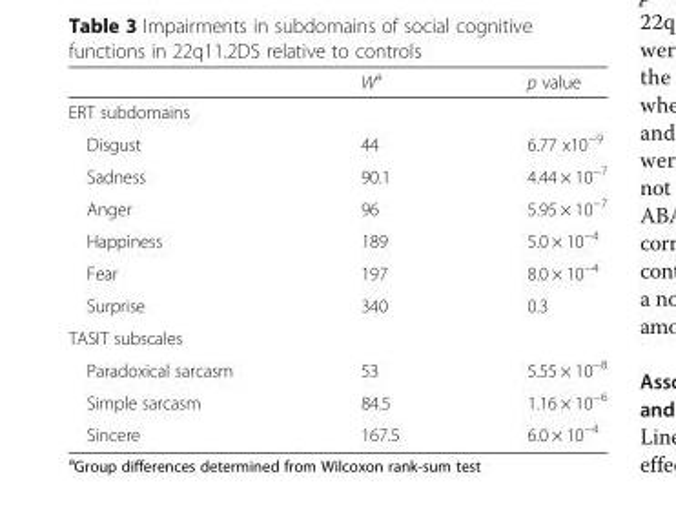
<table><thead><tr><td></td><td>W<sup>a</sup></td><td>p value</td></tr></thead><tbody><tr><td colspan="3">ERT subdomains</td></tr><tr><td>Disgust</td><td>44</td><td>6.77 x10<sup>−9</sup></td></tr><tr><td>Sadness</td><td>90.1</td><td>4.44 × 10<sup>−7</sup></td></tr><tr><td>Anger</td><td>96</td><td>5.95 × 10<sup>−7</sup></td></tr><tr><td>Happiness</td><td>189</td><td>5.0 × 10<sup>−4</sup></td></tr><tr><td>Fear</td><td>197</td><td>8.0 × 10<sup>−4</sup></td></tr><tr><td>Surprise</td><td>340</td><td>0.3</td></tr><tr><td colspan="3">TASIT subscales</td></tr><tr><td>Paradoxical sarcasm</td><td>53</td><td>5.55 × 10<sup>−8</sup></td></tr><tr><td>Simple sarcasm</td><td>84.5</td><td>1.16 × 10<sup>−6</sup></td></tr><tr><td>Sincere</td><td>167.5</td><td>6.0 × 10<sup>−4</sup></td></tr></tbody></table>